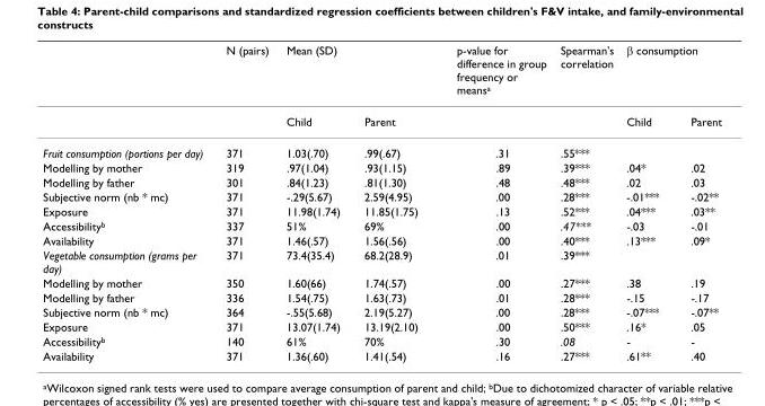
<table><thead><tr><td rowspan="2"></td><td rowspan="2">N (pairs)</td><td colspan="2">Mean (SD)</td><td rowspan="2">p-value for difference in group frequency or means<sup>a</sup></td><td rowspan="2">Spearman&#x27;s correlation</td><td colspan="2">β consumption</td></tr><tr><td>Child</td><td>Parent</td><td>Child</td><td>Parent</td></tr></thead><tbody><tr><td>Fruit consumption (portions per day)</td><td>371</td><td>1.03(.70)</td><td>.99(.67)</td><td>.31</td><td>.55***</td><td></td><td></td></tr><tr><td>Modelling by mother</td><td>319</td><td>.97(1.04)</td><td>.93(1.15)</td><td>.89</td><td>.39***</td><td>.04*</td><td>.02</td></tr><tr><td>Modelling by father</td><td>301</td><td>.84(1.23)</td><td>.81(1.30)</td><td>.48</td><td>.48***</td><td>.02</td><td>.03</td></tr><tr><td>Subjective norm (nb * mc)</td><td>371</td><td>-.29(5.67)</td><td>2.59(4.95)</td><td>.00</td><td>.28***</td><td>-.01***</td><td>-.02**</td></tr><tr><td>Exposure</td><td>371</td><td>11.98(1.74)</td><td>11.85(1.75)</td><td>.13</td><td>.52***</td><td>.04***</td><td>.03**</td></tr><tr><td>Accessibility<sup>b</sup></td><td>337</td><td>51%</td><td>69%</td><td>.00</td><td>.47***</td><td>-.03</td><td>-.01</td></tr><tr><td>Availability</td><td>371</td><td>1.46(.57)</td><td>1.56(.56)</td><td>.00</td><td>.40***</td><td>.13***</td><td>.09*</td></tr><tr><td>Vegetable consumption (grams per day)</td><td>371</td><td>73.4(35.4)</td><td>68.2(28.9)</td><td>.01</td><td>.39***</td><td></td><td></td></tr><tr><td>Modelling by mother</td><td>350</td><td>1.60(66)</td><td>1.74(.57)</td><td>.00</td><td>.27***</td><td>.38</td><td>.19</td></tr><tr><td>Modelling by father</td><td>336</td><td>1.54(.75)</td><td>1.63(.73)</td><td>.01</td><td>.28***</td><td>-.15</td><td>-.17</td></tr><tr><td>Subjective norm (nb * mc)</td><td>364</td><td>-.55(5.68)</td><td>2.19(5.27)</td><td>.00</td><td>.28***</td><td>-.07***</td><td>-.07**</td></tr><tr><td>Exposure</td><td>371</td><td>13.07(1.74)</td><td>13.19(2.10)</td><td>.00</td><td>.50***</td><td>.16*</td><td>.05</td></tr><tr><td>Accessibility<sup>b</sup></td><td>140</td><td>61%</td><td>70%</td><td>.30</td><td>.08</td><td>-</td><td>-</td></tr><tr><td>Availability</td><td>371</td><td>1.36(.60)</td><td>1.41(.54)</td><td>.16</td><td>.27***</td><td>.61**</td><td>.40</td></tr></tbody></table>